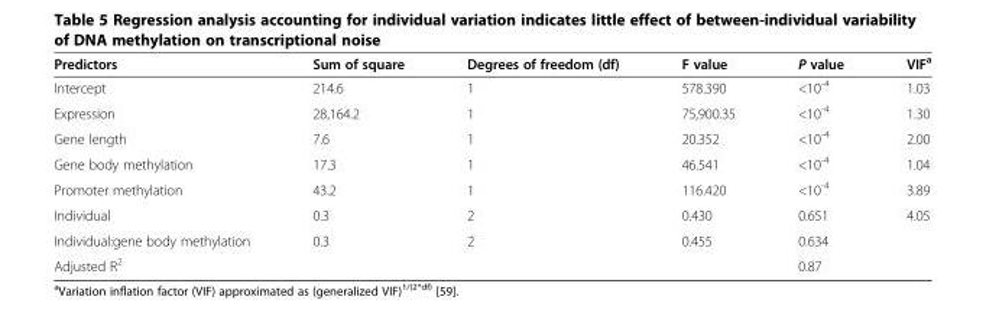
<table><thead><tr><td>Predictors</td><td>Sum of square</td><td>Degrees of freedom (df)</td><td>F value</td><td>P value</td><td>VIF<sup>a</sup></td></tr></thead><tbody><tr><td>Intercept</td><td>214.6</td><td>1</td><td>578.390</td><td>&lt;10<sup>-4</sup></td><td>1.03</td></tr><tr><td>Expression</td><td>28,164.2</td><td>1</td><td>75,900.35</td><td>&lt;10<sup>-4</sup></td><td>1.30</td></tr><tr><td>Gene length</td><td>7.6</td><td>1</td><td>20.352</td><td>&lt;10<sup>-4</sup></td><td>2.00</td></tr><tr><td>Gene body methylation</td><td>17.3</td><td>1</td><td>46.541</td><td>&lt;10<sup>-4</sup></td><td>1.04</td></tr><tr><td>Promoter methylation</td><td>43.2</td><td>1</td><td>116.420</td><td>&lt;10<sup>-4</sup></td><td>3.89</td></tr><tr><td>Individual</td><td>0.3</td><td>2</td><td>0.430</td><td>0.651</td><td>4.05</td></tr><tr><td>Individual:gene body methylation</td><td>0.3</td><td>2</td><td>0.455</td><td>0.634</td><td></td></tr><tr><td>Adjusted R<sup>2</sup></td><td></td><td></td><td></td><td>0.87</td><td></td></tr></tbody></table>